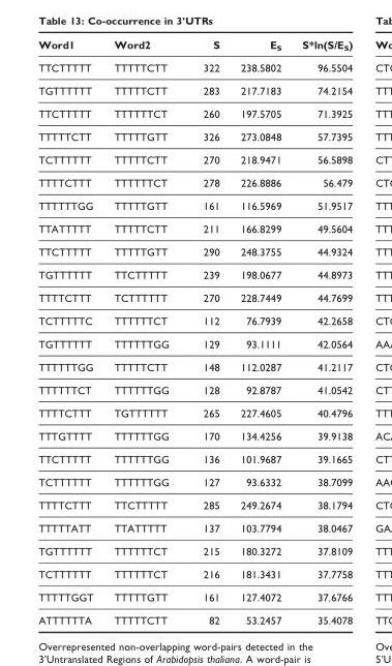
<table><thead><tr><td>Word1</td><td>Word2</td><td>S</td><td>E<sub>S</sub></td><td>S*ln(S/E<sub>S</sub>)</td></tr></thead><tbody><tr><td>TTCTTTTT</td><td>TTTTTCTT</td><td>322</td><td>238.5802</td><td>96.5504</td></tr><tr><td>TGTTTTTT</td><td>TTTTTCTT</td><td>283</td><td>217.7183</td><td>74.2154</td></tr><tr><td>TTCTTTTT</td><td>TTTTTTCT</td><td>260</td><td>197.5705</td><td>71.3925</td></tr><tr><td>TTTTTCTT</td><td>TTTTTGTT</td><td>326</td><td>273.0848</td><td>57.7395</td></tr><tr><td>TCTTTTTT</td><td>TTTTTCTT</td><td>270</td><td>218.9471</td><td>56.5898</td></tr><tr><td>TTTTCTTT</td><td>TTTTTTCT</td><td>278</td><td>226.8886</td><td>56.479</td></tr><tr><td>TTTTTTGG</td><td>TTTTTGTT</td><td>161</td><td>116.5969</td><td>51.9517</td></tr><tr><td>TTATTTTT</td><td>TTTTTCTT</td><td>211</td><td>166.8299</td><td>49.5604</td></tr><tr><td>TTCTTTTT</td><td>TTTTTGTT</td><td>290</td><td>248.3755</td><td>44.9324</td></tr><tr><td>TGTTTTTT</td><td>TTCTTTTT</td><td>239</td><td>198.0677</td><td>44.8973</td></tr><tr><td>TTTTCTTT</td><td>TCTTTTTT</td><td>270</td><td>228.7449</td><td>44.7699</td></tr><tr><td>TCTTTTTC</td><td>TTTTTTCT</td><td>112</td><td>76.7939</td><td>42.2658</td></tr><tr><td>TGTTTTTT</td><td>TTTTTTGG</td><td>129</td><td>93.1111</td><td>42.0564</td></tr><tr><td>TTTTTTGG</td><td>TTTTTCTT</td><td>148</td><td>112.0287</td><td>41.2117</td></tr><tr><td>TTTTTTCT</td><td>TTTTTTGG</td><td>128</td><td>92.8787</td><td>41.0542</td></tr><tr><td>TTTTCTTT</td><td>TGTTTTTT</td><td>265</td><td>227.4605</td><td>40.4796</td></tr><tr><td>TTTGTTTT</td><td>TTTTTTGG</td><td>170</td><td>134.4256</td><td>39.9138</td></tr><tr><td>TTCTTTTT</td><td>TTTTTTGG</td><td>136</td><td>101.9687</td><td>39.1665</td></tr><tr><td>TCTTTTTT</td><td>TTTTTTGG</td><td>127</td><td>93.6332</td><td>38.7099</td></tr><tr><td>TTTTCTTT</td><td>TTCTTTTT</td><td>285</td><td>249.2674</td><td>38.1794</td></tr><tr><td>TTTTTATT</td><td>TTATTTTT</td><td>137</td><td>103.7794</td><td>38.0467</td></tr><tr><td>TGTTTTTT</td><td>TTTTTTCT</td><td>215</td><td>180.3272</td><td>37.8109</td></tr><tr><td>TCTTTTTT</td><td>TTTTTTCT</td><td>216</td><td>181.3431</td><td>37.7758</td></tr><tr><td>TTTTTGGT</td><td>TTTTTGTT</td><td>161</td><td>127.4072</td><td>37.6766</td></tr><tr><td>ATTTTTTA</td><td>TTTTTCTT</td><td>82</td><td>53.2457</td><td>35.4078</td></tr></tbody></table>